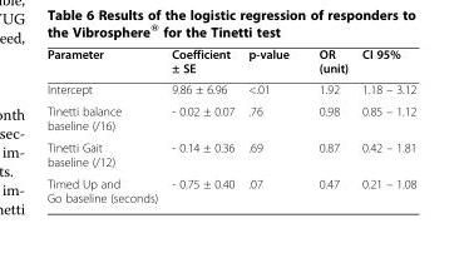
<table><thead><tr><td>Parameter</td><td>Coefficient ± SE</td><td>p-value</td><td>OR (unit)</td><td>CI 95%</td></tr></thead><tbody><tr><td>Intercept</td><td>9.86 ± 6.96</td><td>&lt;.01</td><td>1.92</td><td>1.18 – 3.12</td></tr><tr><td>Tinetti balance baseline (/16)</td><td>- 0.02 ± 0.07</td><td>.76</td><td>0.98</td><td>0.85 – 1.12</td></tr><tr><td>Tinetti Gait baseline (/12)</td><td>- 0.14 ± 0.36</td><td>.69</td><td>0.87</td><td>0.42 – 1.81</td></tr><tr><td>Timed Up and Go baseline (seconds)</td><td>- 0.75 ± 0.40</td><td>.07</td><td>0.47</td><td>0.21 – 1.08</td></tr></tbody></table>